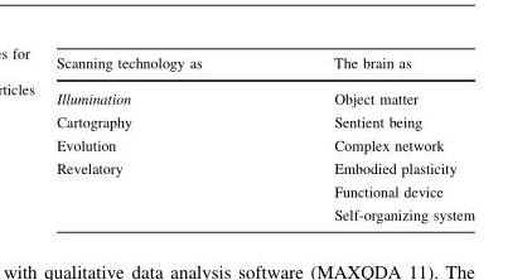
<table><thead><tr><td>Scanning technology as</td><td>The brain as</td></tr></thead><tbody><tr><td>Illumination</td><td>Object matter</td></tr><tr><td>Cartography</td><td>Sentient being</td></tr><tr><td>Evolution</td><td>Complex network</td></tr><tr><td rowspan="3">Revelatory</td><td>Embodied plasticity</td></tr><tr><td>Functional device</td></tr><tr><td>Self-organizing system</td></tr></tbody></table>